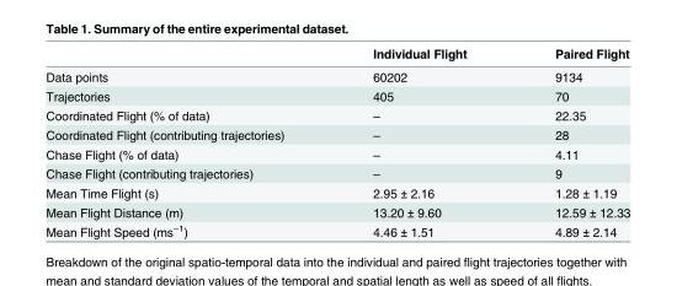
<table><thead><tr><td></td><td>Individual Flight</td><td>Paired Flight</td></tr></thead><tbody><tr><td>Data points</td><td>60202</td><td>9134</td></tr><tr><td>Trajectories</td><td>405</td><td>70</td></tr><tr><td>Coordinated Flight (% of data)</td><td>–</td><td>22.35</td></tr><tr><td>Coordinated Flight (contributing trajectories)</td><td>–</td><td>28</td></tr><tr><td>Chase Flight (% of data)</td><td>–</td><td>4.11</td></tr><tr><td>Chase Flight (contributing trajectories)</td><td>–</td><td>9</td></tr><tr><td>Mean Time Flight (s)</td><td>2.95 ± 2.16</td><td>1.28 ± 1.19</td></tr><tr><td>Mean Flight Distance (m)</td><td>13.20 ± 9.60</td><td>12.59 ± 12.33</td></tr><tr><td>Mean Flight Speed (ms<sup>−1</sup>)</td><td>4.46 ± 1.51</td><td>4.89 ± 2.14</td></tr></tbody></table>